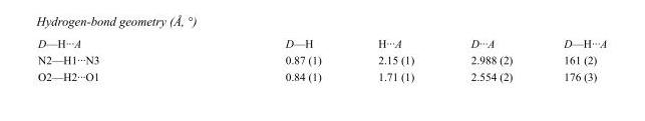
<table><tbody><tr><td>D—H···A</td><td>D—H</td><td>H···A</td><td>D···A</td><td>D—H···A</td></tr><tr><td>N2—H1···N3</td><td>0.87 (1)</td><td>2.15 (1)</td><td>2.988 (2)</td><td>161 (2)</td></tr><tr><td>O2—H2···O1</td><td>0.84 (1)</td><td>1.71 (1)</td><td>2.554 (2)</td><td>176 (3)</td></tr></tbody></table>